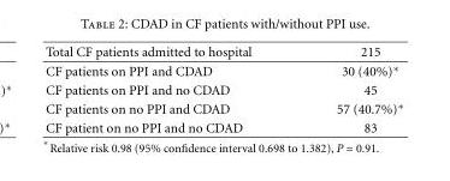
<table><thead><tr><td>Total CF patients admitted to hospital</td><td>215</td></tr></thead><tbody><tr><td>CF patients on PPI and CDAD</td><td>30 (40%)∗</td></tr><tr><td>CF patients on PPI and no CDAD</td><td>45</td></tr><tr><td>CF patients on no PPI and CDAD</td><td>57 (40.7%)∗</td></tr><tr><td>CF patient on no PPI and no CDAD</td><td>83</td></tr></tbody></table>